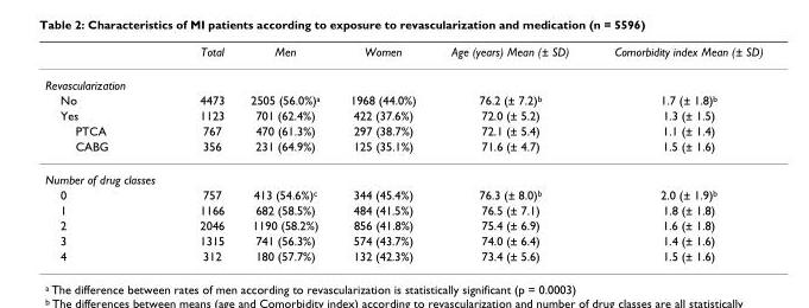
<table><thead><tr><td></td><td>Total</td><td>Men</td><td>Women</td><td>Age (years) Mean (± SD)</td><td>Comorbidity index Mean (± SD)</td></tr></thead><tbody><tr><td colspan="6">Revascularization</td></tr><tr><td>No</td><td>4473</td><td>2505 (56.0%)<sup>a</sup></td><td>1968 (44.0%)</td><td>76.2 (± 7.2)<sup>b</sup></td><td>1.7 (± 1.8)<sup>b</sup></td></tr><tr><td>Yes</td><td>1123</td><td>701 (62.4%)</td><td>422 (37.6%)</td><td>72.0 (± 5.2)</td><td>1.3 (± 1.5)</td></tr><tr><td>PTCA</td><td>767</td><td>470 (61.3%)</td><td>297 (38.7%)</td><td>72.1 (± 5.4)</td><td>1.1 (± 1.4)</td></tr><tr><td>CABG</td><td>356</td><td>231 (64.9%)</td><td>125 (35.1%)</td><td>71.6 (± 4.7)</td><td>1.5 (± 1.6)</td></tr><tr><td colspan="6">Number of drug classes</td></tr><tr><td>0</td><td>757</td><td>413 (54.6%)<sup>c</sup></td><td>344 (45.4%)</td><td>76.3 (± 8.0)<sup>b</sup></td><td>2.0 (± 1.9)<sup>b</sup></td></tr><tr><td>1</td><td>1166</td><td>682 (58.5%)</td><td>484 (41.5%)</td><td>76.5 (± 7.1)</td><td>1.8 (± 1.8)</td></tr><tr><td>2</td><td>2046</td><td>1190 (58.2%)</td><td>856 (41.8%)</td><td>75.4 (± 6.9)</td><td>1.6 (± 1.8)</td></tr><tr><td>3</td><td>1315</td><td>741 (56.3%)</td><td>574 (43.7%)</td><td>74.0 (± 6.4)</td><td>1.4 (± 1.6)</td></tr><tr><td>4</td><td>312</td><td>180 (57.7%)</td><td>132 (42.3%)</td><td>73.4 (± 5.6)</td><td>1.5 (± 1.6)</td></tr></tbody></table>